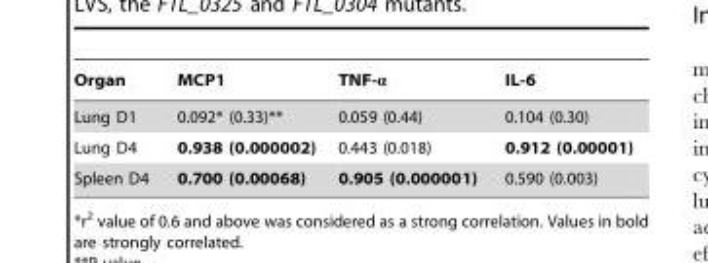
<table><thead><tr><td>Organ</td><td>MCP1</td><td>TNF-α</td><td>IL-6</td></tr></thead><tbody><tr><td>Lung D1</td><td>0.092* (0.33)**</td><td>0.059 (0.44)</td><td>0.104 (0.30)</td></tr><tr><td>Lung D4</td><td>0.938 (0.000002)</td><td>0.443 (0.018)</td><td>0.912 (0.00001)</td></tr><tr><td>Spleen D4</td><td>0.700 (0.00068)</td><td>0.905 (0.000001)</td><td>0.590 (0.003)</td></tr></tbody></table>